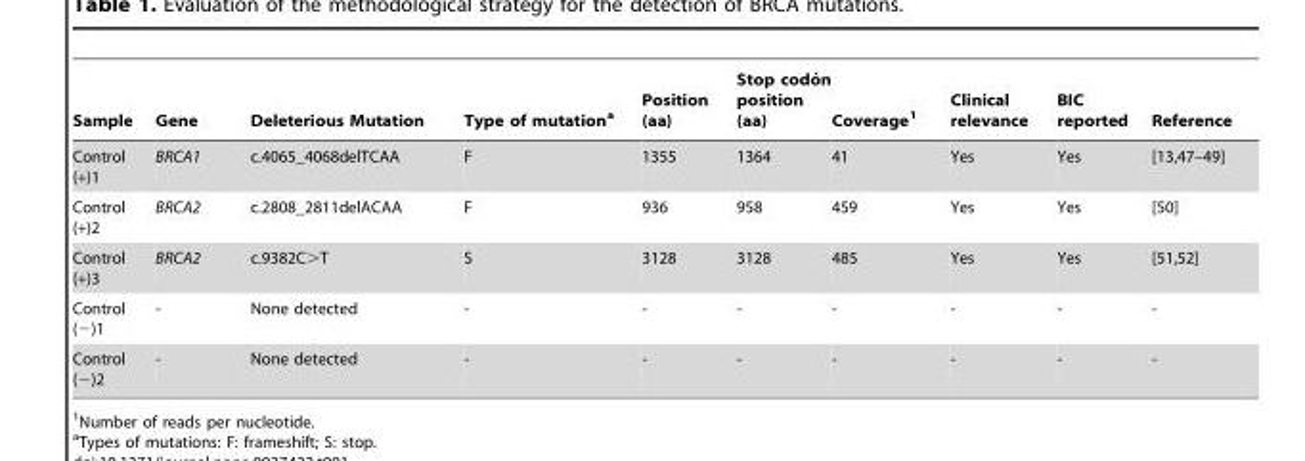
<table><thead><tr><td>Sample</td><td>Gene</td><td>Deleterious Mutation</td><td>Type of mutation<sup>a</sup></td><td>Position (aa)</td><td>Stop codo´ n position (aa)</td><td>Coverage<sup>1</sup></td><td>Clinical relevance</td><td>BIC reported</td><td>Reference</td></tr></thead><tbody><tr><td>Control (+)1</td><td>BRCA1</td><td>c.4065_4068delTCAA</td><td>F</td><td>1355</td><td>1364</td><td>41</td><td>Yes</td><td>Yes</td><td>[13,47–49]</td></tr><tr><td>Control (+)2</td><td>BRCA2</td><td>c.2808_2811delACAA</td><td>F</td><td>936</td><td>958</td><td>459</td><td>Yes</td><td>Yes</td><td>[50]</td></tr><tr><td>Control (+)3</td><td>BRCA2</td><td>c.9382C&gt;T</td><td>S</td><td>3128</td><td>3128</td><td>485</td><td>Yes</td><td>Yes</td><td>[51,52]</td></tr><tr><td>Control (−)1</td><td>-</td><td>None detected</td><td>-</td><td>-</td><td>-</td><td>-</td><td>-</td><td>-</td><td>-</td></tr><tr><td>Control (−)2</td><td>-</td><td>None detected</td><td>-</td><td>-</td><td>-</td><td>-</td><td>-</td><td>-</td><td>-</td></tr></tbody></table>